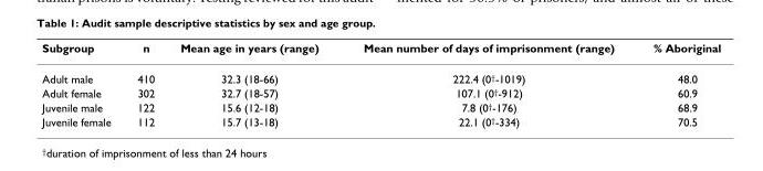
<table><thead><tr><td>Subgroup</td><td>n</td><td>Mean age in years (range)</td><td>Mean number of days of imprisonment (range)</td><td>% Aboriginal</td></tr></thead><tbody><tr><td>Adult male</td><td>410</td><td>32.3 (18-66)</td><td>222.4 (0<sup>†</sup>-1019)</td><td>48.0</td></tr><tr><td>Adult female</td><td>302</td><td>32.7 (18-57)</td><td>107.1 (0<sup>†</sup>-912)</td><td>60.9</td></tr><tr><td>Juvenile male</td><td>122</td><td>15.6 (12-18)</td><td>7.8 (0<sup>†</sup>-176)</td><td>68.9</td></tr><tr><td>Juvenile female</td><td>112</td><td>15.7 (13-18)</td><td>22.1 (0<sup>†</sup>-334)</td><td>70.5</td></tr></tbody></table>